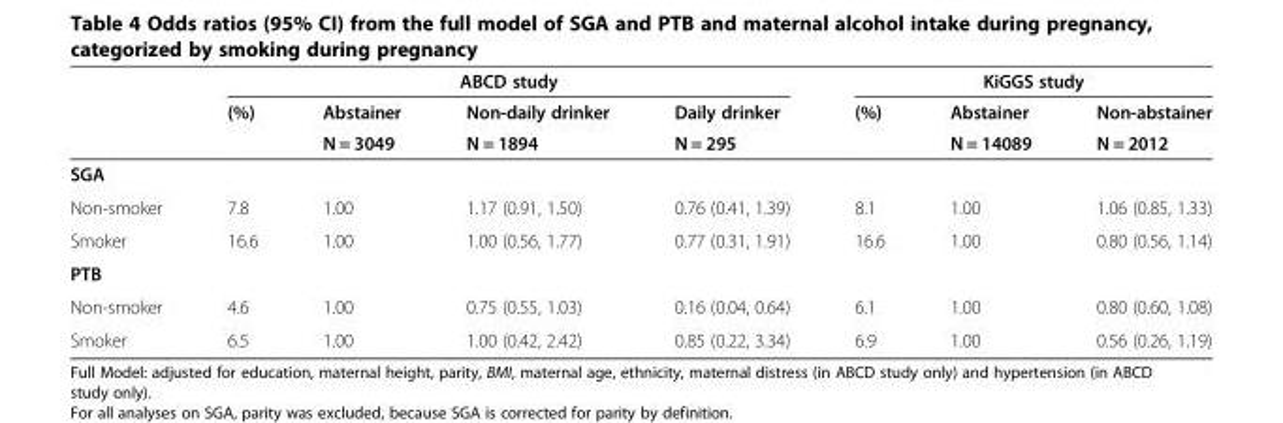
<table><thead><tr><td rowspan="3"></td><td colspan="4">ABCD study</td><td colspan="2">KiGGS study</td><td rowspan="3">Non-abstainer N = 2012</td></tr><tr><td rowspan="2">(%)</td><td rowspan="2">Abstainer N = 3049</td><td rowspan="2">Non-daily drinker N = 1894</td><td rowspan="2">Daily drinker N = 295</td><td rowspan="2">(%)</td><td rowspan="2">Abstainer N = 14089</td></tr><tr></tr></thead><tbody><tr><td colspan="8">SGA</td></tr><tr><td>Non-smoker</td><td>7.8</td><td>1.00</td><td>1.17 (0.91, 1.50)</td><td>0.76 (0.41, 1.39)</td><td>8.1</td><td>1.00</td><td>1.06 (0.85, 1.33)</td></tr><tr><td>Smoker</td><td>16.6</td><td>1.00</td><td>1.00 (0.56, 1.77)</td><td>0.77 (0.31, 1.91)</td><td>16.6</td><td>1.00</td><td>0.80 (0.56, 1.14)</td></tr><tr><td colspan="8">PTB</td></tr><tr><td>Non-smoker</td><td>4.6</td><td>1.00</td><td>0.75 (0.55, 1.03)</td><td>0.16 (0.04, 0.64)</td><td>6.1</td><td>1.00</td><td>0.80 (0.60, 1.08)</td></tr><tr><td>Smoker</td><td>6.5</td><td>1.00</td><td>1.00 (0.42, 2.42)</td><td>0.85 (0.22, 3.34)</td><td>6.9</td><td>1.00</td><td>0.56 (0.26, 1.19)</td></tr></tbody></table>